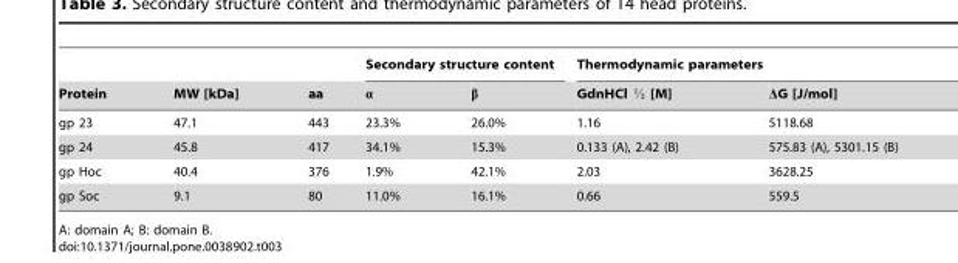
<table><thead><tr><td rowspan="2">Protein</td><td rowspan="2">MW [kDa]</td><td rowspan="2">aa</td><td colspan="2">Secondary structure content</td><td colspan="2">Thermodynamic parameters</td></tr><tr><td>α</td><td>β</td><td>GdnHCl K [M]</td><td>ΔG [J/mol]</td></tr></thead><tbody><tr><td>gp 23</td><td>47.1</td><td>443</td><td>23.3%</td><td>26.0%</td><td>1.16</td><td>5118.68</td></tr><tr><td>gp 24</td><td>45.8</td><td>417</td><td>34.1%</td><td>15.3%</td><td>0.133 (A), 2.42 (B)</td><td>575.83 (A), 5301.15 (B)</td></tr><tr><td>gp Hoc</td><td>40.4</td><td>376</td><td>1.9%</td><td>42.1%</td><td>2.03</td><td>3628.25</td></tr><tr><td>gp Soc</td><td>9.1</td><td>80</td><td>11.0%</td><td>16.1%</td><td>0.66</td><td>559.5</td></tr></tbody></table>